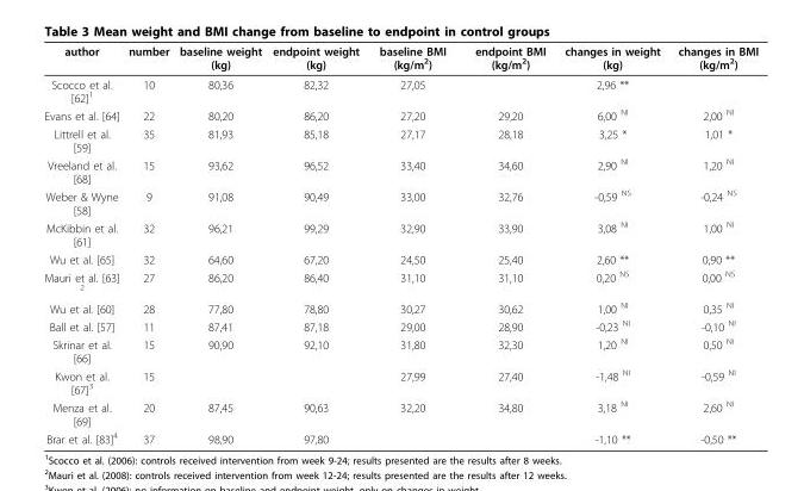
<table><thead><tr><td>author</td><td>number</td><td>baseline weight (kg)</td><td>endpoint weight (kg)</td><td>baseline BMI (kg/m<sup>2</sup>)</td><td>endpoint BMI (kg/m<sup>2</sup>)</td><td>changes in weight (kg)</td><td>changes in BMI (kg/m<sup>2</sup>)</td></tr></thead><tbody><tr><td>Scocco et al. [62]<sup>1</sup></td><td>10</td><td>80,36</td><td>82,32</td><td>27,05</td><td></td><td>2,96 **</td><td></td></tr><tr><td>Evans et al. [64]</td><td>22</td><td>80,20</td><td>86,20</td><td>27,20</td><td>29,20</td><td>6,00 <sup>NI</sup></td><td>2,00 <sup>NI</sup></td></tr><tr><td>Littrell et al. [59]</td><td>35</td><td>81,93</td><td>85,18</td><td>27,17</td><td>28,18</td><td>3,25 *</td><td>1,01 *</td></tr><tr><td>Vreeland et al. [68]</td><td>15</td><td>93,62</td><td>96,52</td><td>33,40</td><td>34,60</td><td>2,90 <sup>NI</sup></td><td>1,20 <sup>NI</sup></td></tr><tr><td>Weber &amp; Wyne [58]</td><td>9</td><td>91,08</td><td>90,49</td><td>33,00</td><td>32,76</td><td>-0,59 <sup>NS</sup></td><td>-0,24 <sup>NS</sup></td></tr><tr><td>McKibbin et al. [61]</td><td>32</td><td>96,21</td><td>99,29</td><td>32,90</td><td>33,90</td><td>3,08 <sup>NI</sup></td><td>1,00 <sup>NI</sup></td></tr><tr><td>Wu et al. [65]</td><td>32</td><td>64,60</td><td>67,20</td><td>24,50</td><td>25,40</td><td>2,60 **</td><td>0,90 **</td></tr><tr><td>Mauri et al. [63] <sup>2</sup></td><td>27</td><td>86,20</td><td>86,40</td><td>31,10</td><td>31,10</td><td>0,20 <sup>NS</sup></td><td>0,00 <sup>NS</sup></td></tr><tr><td>Wu et al. [60]</td><td>28</td><td>77,80</td><td>78,80</td><td>30,27</td><td>30,62</td><td>1,00 <sup>NI</sup></td><td>0,35 <sup>NI</sup></td></tr><tr><td>Ball et al. [57]</td><td>11</td><td>87,41</td><td>87,18</td><td>29,00</td><td>28,90</td><td>-0,23 <sup>NI</sup></td><td>-0,10 <sup>NI</sup></td></tr><tr><td>Skrinar et al. [66]</td><td>15</td><td>90,90</td><td>92,10</td><td>31,80</td><td>32,30</td><td>1,20 <sup>NI</sup></td><td>0,50 <sup>NI</sup></td></tr><tr><td>Kwon et al. [67]<sup>3</sup></td><td>15</td><td></td><td></td><td>27,99</td><td>27,40</td><td>-1,48 <sup>NI</sup></td><td>-0,59 <sup>NI</sup></td></tr><tr><td>Menza et al. [69]</td><td>20</td><td>87,45</td><td>90,63</td><td>32,20</td><td>34,80</td><td>3,18 <sup>NI</sup></td><td>2,60 <sup>NI</sup></td></tr><tr><td>Brar et al. [83]<sup>4</sup></td><td>37</td><td>98,90</td><td>97,80</td><td></td><td></td><td>-1,10 **</td><td>-0,50 **</td></tr></tbody></table>